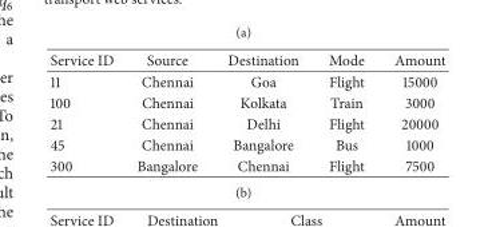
<table><thead><tr><td>Service ID</td><td>Source</td><td>Destination</td><td>Mode</td><td>Amount</td></tr></thead><tbody><tr><td>11</td><td>Chennai</td><td>Goa</td><td>Flight</td><td>15000</td></tr><tr><td>100</td><td>Chennai</td><td>Kolkata</td><td>Train</td><td>3000</td></tr><tr><td>21</td><td>Chennai</td><td>Delhi</td><td>Flight</td><td>20000</td></tr><tr><td>45</td><td>Chennai</td><td>Bangalore</td><td>Bus</td><td>1000</td></tr><tr><td>300</td><td>Bangalore</td><td>Chennai</td><td>Flight</td><td>7500</td></tr></tbody></table>